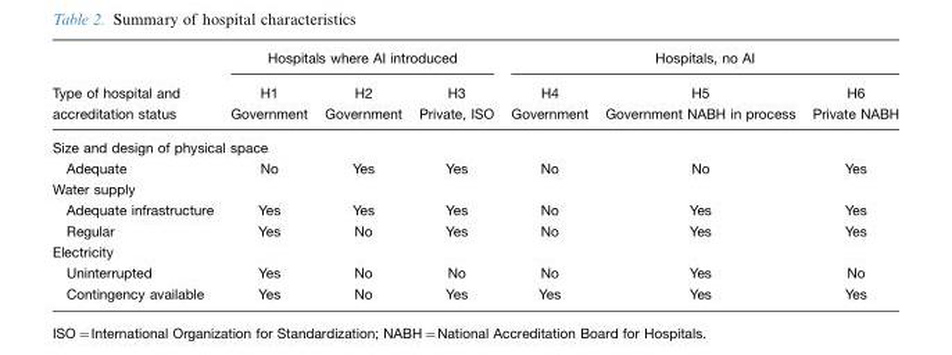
<table><thead><tr><td rowspan="2">Type of hospital and accreditation status</td><td colspan="3">Hospitals where AI introduced</td><td colspan="3">Hospitals, no AI</td></tr><tr><td>H1 Government</td><td>H2 Government</td><td>H3 Private, ISO</td><td>H4 Government</td><td>H5 Government NABH in process</td><td>H6 Private NABH</td></tr></thead><tbody><tr><td colspan="7">Size and design of physical space</td></tr><tr><td>Adequate</td><td>No</td><td>Yes</td><td>Yes</td><td>No</td><td>No</td><td>Yes</td></tr><tr><td colspan="7">Water supply</td></tr><tr><td>Adequate infrastructure</td><td>Yes</td><td>Yes</td><td>Yes</td><td>No</td><td>Yes</td><td>Yes</td></tr><tr><td>Regular</td><td>Yes</td><td>No</td><td>Yes</td><td>No</td><td>Yes</td><td>Yes</td></tr><tr><td colspan="7">Electricity</td></tr><tr><td>Uninterrupted</td><td>Yes</td><td>No</td><td>No</td><td>No</td><td>Yes</td><td>No</td></tr><tr><td>Contingency available</td><td>Yes</td><td>No</td><td>Yes</td><td>Yes</td><td>Yes</td><td>Yes</td></tr></tbody></table>